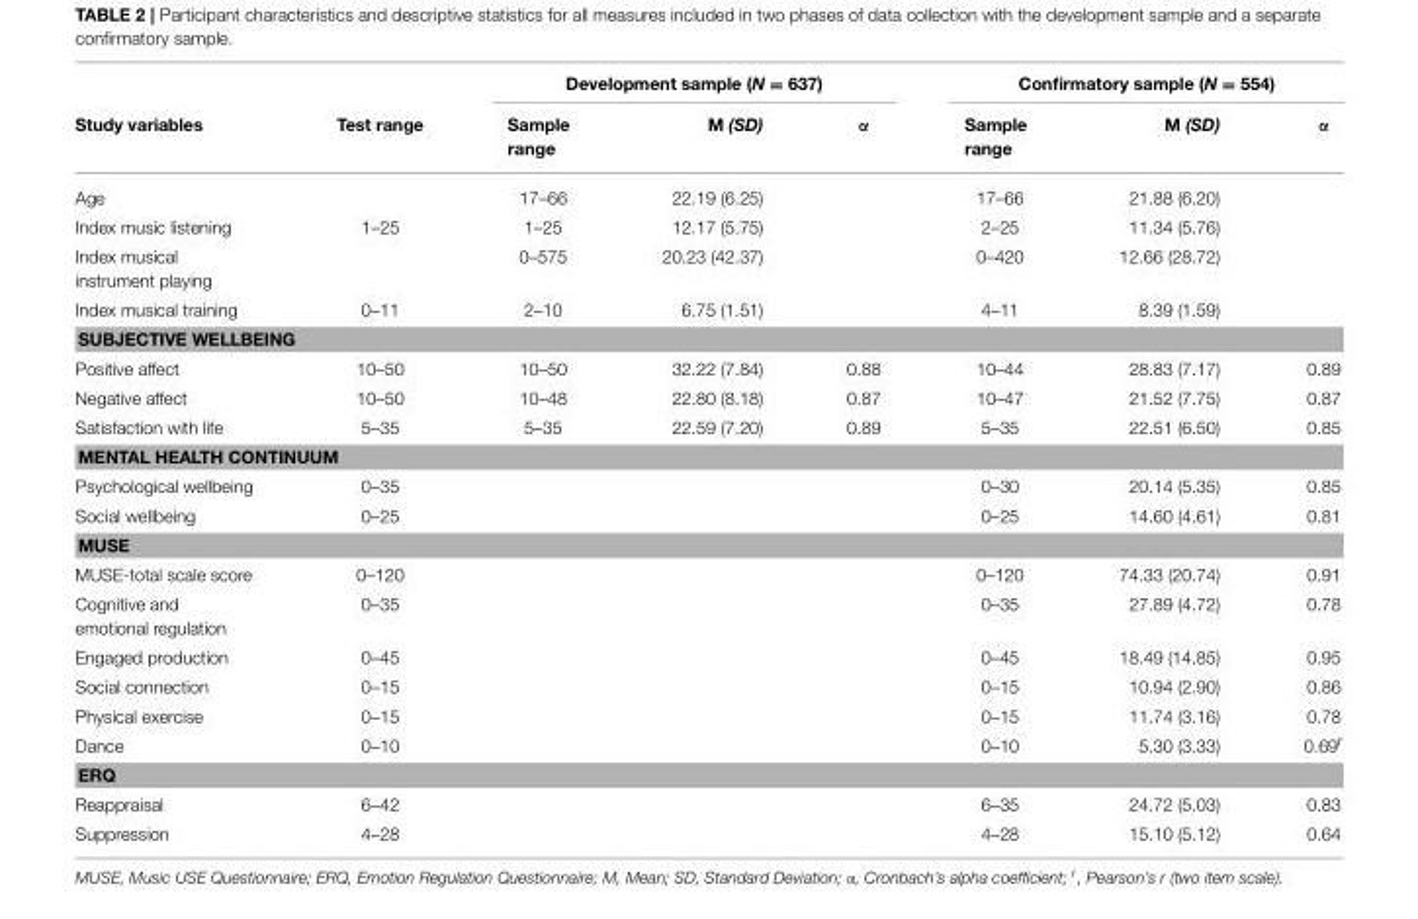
<table><thead><tr><td rowspan="2">Study variables</td><td rowspan="2">Test range</td><td colspan="3">Development sample (N = 637)</td><td colspan="3">Confirmatory sample (N = 554)</td></tr><tr><td>Sample range</td><td>M (SD)</td><td>α</td><td>Sample range</td><td>M (SD)</td><td>α</td></tr></thead><tbody><tr><td>Age</td><td></td><td>17–66</td><td>22.19 (6.25)</td><td></td><td>17–66</td><td>21.88 (6.20)</td><td></td></tr><tr><td>Index music listening</td><td>1–25</td><td>1–25</td><td>12.17 (5.75)</td><td></td><td>2–25</td><td>11.34 (5.76)</td><td></td></tr><tr><td>Index musical instrument playing</td><td></td><td>0–575</td><td>20.23 (42.37)</td><td></td><td>0–420</td><td>12.66 (28.72)</td><td></td></tr><tr><td>Index musical training</td><td>0–11</td><td>2–10</td><td>6.75 (1.51)</td><td></td><td>4–11</td><td>8.39 (1.59)</td><td></td></tr><tr><td colspan="8">SUBJECTIVE WELLBEING</td></tr><tr><td>Positive affect</td><td>10–50</td><td>10–50</td><td>32.22 (7.84)</td><td>0.88</td><td>10–44</td><td>28.83 (7.17)</td><td>0.89</td></tr><tr><td>Negative affect</td><td>10–50</td><td>10–48</td><td>22.80 (8.18)</td><td>0.87</td><td>10–47</td><td>21.52 (7.75)</td><td>0.87</td></tr><tr><td>Satisfaction with life</td><td>5–35</td><td>5–35</td><td>22.59 (7.20)</td><td>0.89</td><td>5–35</td><td>22.51 (6.50)</td><td>0.85</td></tr><tr><td colspan="8">MENTAL HEALTH CONTINUUM</td></tr><tr><td>Psychological wellbeing</td><td>0–35</td><td></td><td></td><td></td><td>0–30</td><td>20.14 (5.35)</td><td>0.85</td></tr><tr><td>Social wellbeing</td><td>0–25</td><td></td><td></td><td></td><td>0–25</td><td>14.60 (4.61)</td><td>0.81</td></tr><tr><td colspan="8">MUSE</td></tr><tr><td>MUSE-total scale score</td><td>0–120</td><td></td><td></td><td></td><td>0–120</td><td>74.33 (20.74)</td><td>0.91</td></tr><tr><td>Cognitive and emotional regulation</td><td>0–35</td><td></td><td></td><td></td><td>0–35</td><td>27.89 (4.72)</td><td>0.78</td></tr><tr><td>Engaged production</td><td>0–45</td><td></td><td></td><td></td><td>0–45</td><td>18.49 (14.85)</td><td>0.95</td></tr><tr><td>Social connection</td><td>0–15</td><td></td><td></td><td></td><td>0–15</td><td>10.94 (2.90)</td><td>0.86</td></tr><tr><td>Physical exercise</td><td>0–15</td><td></td><td></td><td></td><td>0–15</td><td>11.74 (3.16)</td><td>0.78</td></tr><tr><td>Dance</td><td>0–10</td><td></td><td></td><td></td><td>0–10</td><td>5.30 (3.33)</td><td>0.69<sup>r</sup></td></tr><tr><td colspan="8">ERQ</td></tr><tr><td>Reappraisal</td><td>6–42</td><td></td><td></td><td></td><td>6–35</td><td>24.72 (5.03)</td><td>0.83</td></tr><tr><td>Suppression</td><td>4–28</td><td></td><td></td><td></td><td>4–28</td><td>15.10 (5.12)</td><td>0.64</td></tr></tbody></table>